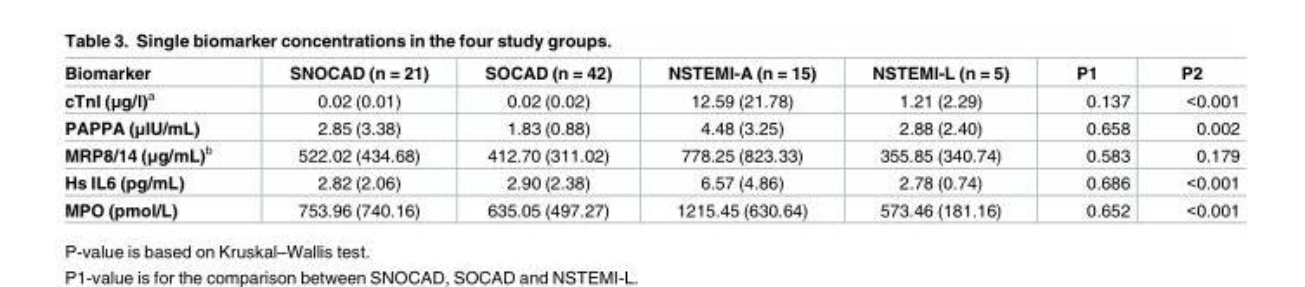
<table><thead><tr><td>Biomarker</td><td>SNOCAD (n = 21)</td><td>SOCAD (n = 42)</td><td>NSTEMI-A (n = 15)</td><td>NSTEMI-L (n = 5)</td><td>P1</td><td>P2</td></tr></thead><tbody><tr><td>cTnI (μg/l)<sup>a</sup></td><td>0.02 (0.01)</td><td>0.02 (0.02)</td><td>12.59 (21.78)</td><td>1.21 (2.29)</td><td>0.137</td><td>&lt;0.001</td></tr><tr><td>PAPPA (μIU/mL)</td><td>2.85 (3.38)</td><td>1.83 (0.88)</td><td>4.48 (3.25)</td><td>2.88 (2.40)</td><td>0.658</td><td>0.002</td></tr><tr><td>MRP8/14 (μg/mL)<sup>b</sup></td><td>522.02 (434.68)</td><td>412.70 (311.02)</td><td>778.25 (823.33)</td><td>355.85 (340.74)</td><td>0.583</td><td>0.179</td></tr><tr><td>Hs IL6 (pg/mL)</td><td>2.82 (2.06)</td><td>2.90 (2.38)</td><td>6.57 (4.86)</td><td>2.78 (0.74)</td><td>0.686</td><td>&lt;0.001</td></tr><tr><td>MPO (pmol/L)</td><td>753.96 (740.16)</td><td>635.05 (497.27)</td><td>1215.45 (630.64)</td><td>573.46 (181.16)</td><td>0.652</td><td>&lt;0.001</td></tr></tbody></table>